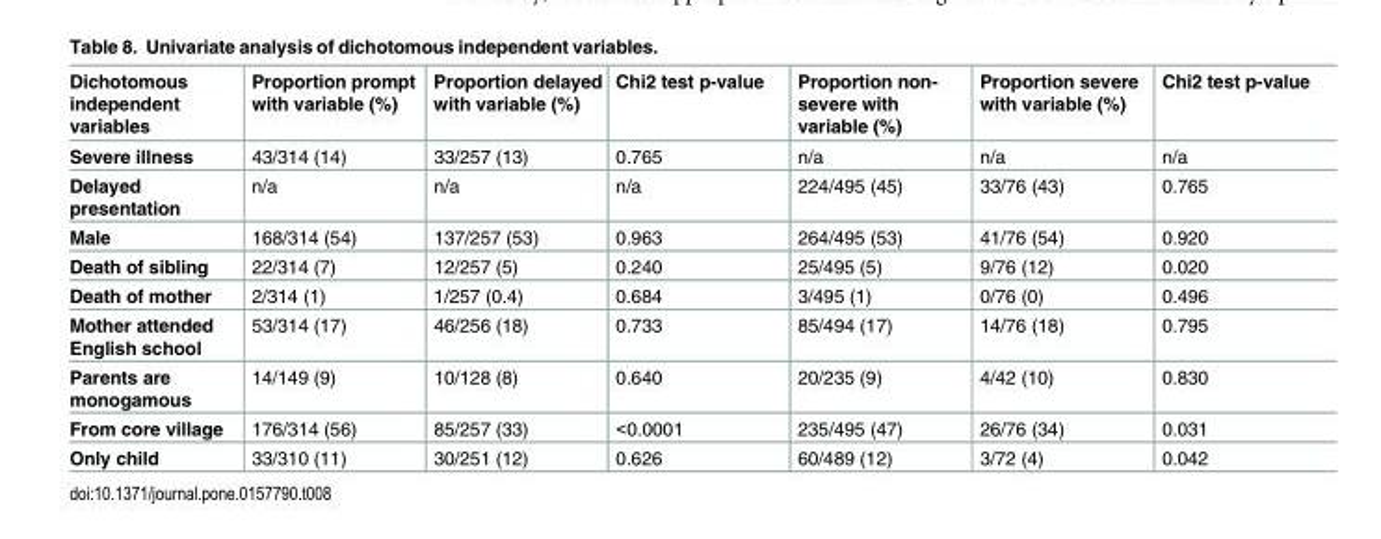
<table><thead><tr><td>Dichotomous independent variables</td><td>Proportion prompt with variable (%)</td><td>Proportion delayed with variable (%)</td><td>Chi2 test p-value</td><td>Proportion non- severe with variable (%)</td><td>Proportion severe with variable (%)</td><td>Chi2 test p-value</td></tr></thead><tbody><tr><td>Severe illness</td><td>43/314 (14)</td><td>33/257 (13)</td><td>0.765</td><td>n/a</td><td>n/a</td><td>n/a</td></tr><tr><td>Delayed presentation</td><td>n/a</td><td>n/a</td><td>n/a</td><td>224/495 (45)</td><td>33/76 (43)</td><td>0.765</td></tr><tr><td>Male</td><td>168/314 (54)</td><td>137/257 (53)</td><td>0.963</td><td>264/495 (53)</td><td>41/76 (54)</td><td>0.920</td></tr><tr><td>Death of sibling</td><td>22/314 (7)</td><td>12/257 (5)</td><td>0.240</td><td>25/495 (5)</td><td>9/76 (12)</td><td>0.020</td></tr><tr><td>Death of mother</td><td>2/314 (1)</td><td>1/257 (0.4)</td><td>0.684</td><td>3/495 (1)</td><td>0/76 (0)</td><td>0.496</td></tr><tr><td>Mother attended English school</td><td>53/314 (17)</td><td>46/256 (18)</td><td>0.733</td><td>85/494 (17)</td><td>14/76 (18)</td><td>0.795</td></tr><tr><td>Parents are monogamous</td><td>14/149 (9)</td><td>10/128 (8)</td><td>0.640</td><td>20/235 (9)</td><td>4/42 (10)</td><td>0.830</td></tr><tr><td>From core village</td><td>176/314 (56)</td><td>85/257 (33)</td><td>&lt;0.0001</td><td>235/495 (47)</td><td>26/76 (34)</td><td>0.031</td></tr><tr><td>Only child</td><td>33/310 (11)</td><td>30/251 (12)</td><td>0.626</td><td>60/489 (12)</td><td>3/72 (4)</td><td>0.042</td></tr></tbody></table>